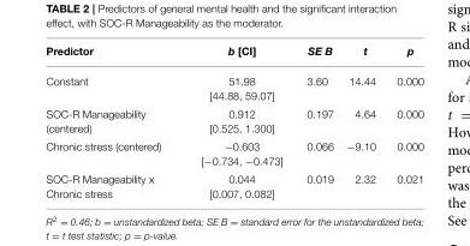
<table><thead><tr><td>Predictor</td><td>b [CI]</td><td>SE B</td><td>t</td><td>p</td></tr></thead><tbody><tr><td>Constant</td><td>51.98 [44.88, 59.07]</td><td>3.60</td><td>14.44</td><td>0.000</td></tr><tr><td>SOC-R Manageability (centered)</td><td>0.912 [0.525, 1.300]</td><td>0.197</td><td>4.64</td><td>0.000</td></tr><tr><td>Chronic stress (centered)</td><td>−0.603 [−0.734, −0.473]</td><td>0.066</td><td>−9.10</td><td>0.000</td></tr><tr><td>SOC-R Manageability x Chronic stress</td><td>0.044 [0.007, 0.082]</td><td>0.019</td><td>2.32</td><td>0.021</td></tr></tbody></table>